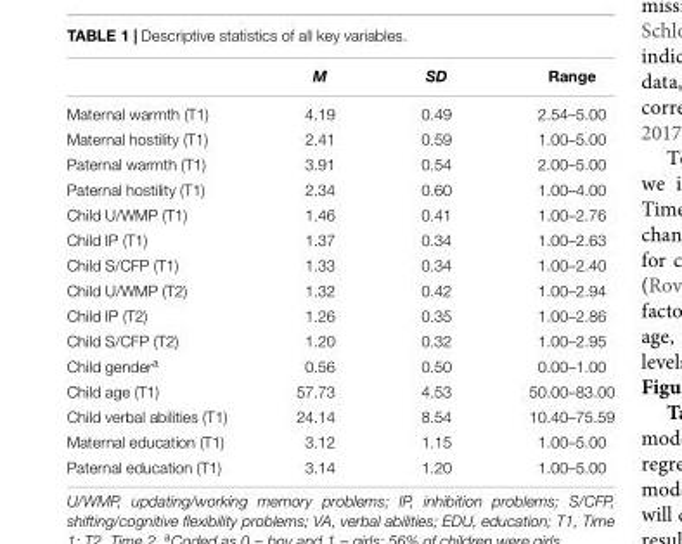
<table><thead><tr><td></td><td>M</td><td>SD</td><td>Range</td></tr></thead><tbody><tr><td>Maternal warmth (T1)</td><td>4.19</td><td>0.49</td><td>2.54–5.00</td></tr><tr><td>Maternal hostility (T1)</td><td>2.41</td><td>0.59</td><td>1.00–5.00</td></tr><tr><td>Paternal warmth (T1)</td><td>3.91</td><td>0.54</td><td>2.00–5.00</td></tr><tr><td>Paternal hostility (T1)</td><td>2.34</td><td>0.60</td><td>1.00–4.00</td></tr><tr><td>Child U/WMP (T1)</td><td>1.46</td><td>0.41</td><td>1.00–2.76</td></tr><tr><td>Child IP (T1)</td><td>1.37</td><td>0.34</td><td>1.00–2.63</td></tr><tr><td>Child S/CFP (T1)</td><td>1.33</td><td>0.34</td><td>1.00–2.40</td></tr><tr><td>Child U/WMP (T2)</td><td>1.32</td><td>0.42</td><td>1.00–2.94</td></tr><tr><td>Child IP (T2)</td><td>1.26</td><td>0.35</td><td>1.00–2.86</td></tr><tr><td>Child S/CFP (T2)</td><td>1.20</td><td>0.32</td><td>1.00–2.95</td></tr><tr><td>Child gender<sup>a</sup></td><td>0.56</td><td>0.50</td><td>0.00–1.00</td></tr><tr><td>Child age (T1)</td><td>57.73</td><td>4.53</td><td>50.00–83.00</td></tr><tr><td>Child verbal abilities (T1)</td><td>24.14</td><td>8.54</td><td>10.40–75.59</td></tr><tr><td>Maternal education (T1)</td><td>3.12</td><td>1.15</td><td>1.00–5.00</td></tr><tr><td>Paternal education (T1)</td><td>3.14</td><td>1.20</td><td>1.00–5.00</td></tr></tbody></table>